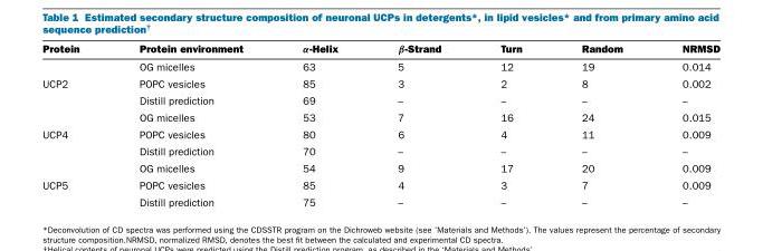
<table><thead><tr><td>Protein</td><td>Protein environment</td><td>α-Helix</td><td>β-Strand</td><td>Turn</td><td>Random</td><td>NRMSD</td></tr></thead><tbody><tr><td></td><td>OG micelles</td><td>63</td><td>5</td><td>12</td><td>19</td><td>0.014</td></tr><tr><td rowspan="3">UCP2</td><td>POPC vesicles</td><td>85</td><td>3</td><td>2</td><td>8</td><td>0.002</td></tr><tr><td>Distill prediction</td><td>69</td><td>–</td><td>–</td><td>–</td><td>–</td></tr><tr><td>OG micelles</td><td>53</td><td>7</td><td>16</td><td>24</td><td>0.015</td></tr><tr><td rowspan="3">UCP4</td><td>POPC vesicles</td><td>80</td><td>6</td><td>4</td><td>11</td><td>0.009</td></tr><tr><td>Distill prediction</td><td>70</td><td>–</td><td>–</td><td>–</td><td>–</td></tr><tr><td>OG micelles</td><td>54</td><td>9</td><td>17</td><td>20</td><td>0.009</td></tr><tr><td rowspan="2">UCP5</td><td>POPC vesicles</td><td>85</td><td>4</td><td>3</td><td>7</td><td>0.009</td></tr><tr><td>Distill prediction</td><td>75</td><td>–</td><td>–</td><td>–</td><td>–</td></tr></tbody></table>